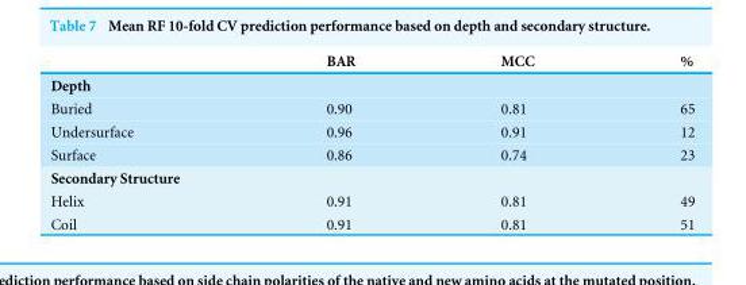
<table><thead><tr><td></td><td>BAR</td><td>MCC</td><td>%</td></tr></thead><tbody><tr><td colspan="4">Depth</td></tr><tr><td>Buried</td><td>0.90</td><td>0.81</td><td>65</td></tr><tr><td>Undersurface</td><td>0.96</td><td>0.91</td><td>12</td></tr><tr><td>Surface</td><td>0.86</td><td>0.74</td><td>23</td></tr><tr><td colspan="4">Secondary Structure</td></tr><tr><td>Helix</td><td>0.91</td><td>0.81</td><td>49</td></tr><tr><td>Coil</td><td>0.91</td><td>0.81</td><td>51</td></tr></tbody></table>